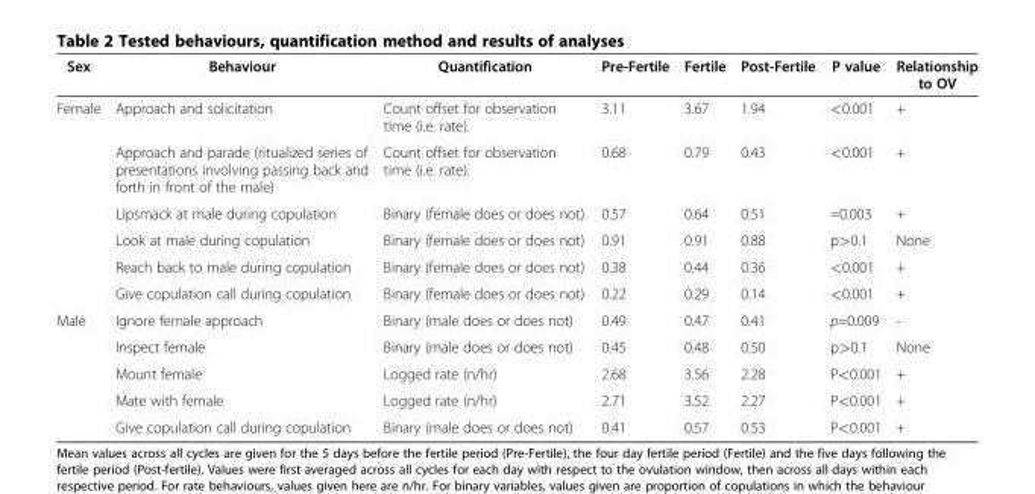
<table><thead><tr><td>Sex</td><td>Behaviour</td><td>Quantification</td><td>Pre-Fertile</td><td>Fertile</td><td>Post-Fertile</td><td>P value</td><td>Relationship to OV</td></tr></thead><tbody><tr><td rowspan="6">Female</td><td>Approach and solicitation</td><td>Count offset for observation time (i.e. rate).</td><td>3.11</td><td>3.67</td><td>1.94</td><td>&lt;0.001</td><td>+</td></tr><tr><td>Approach and parade (ritualized series of presentations involving passing back and forth in front of the male)</td><td>Count offset for observation time (i.e. rate).</td><td>0.68</td><td>0.79</td><td>0.43</td><td>&lt;0.001</td><td>+</td></tr><tr><td>Lipsmack at male during copulation</td><td>Binary (female does or does not).</td><td>0.57</td><td>0.64</td><td>0.51</td><td>=0.003</td><td>+</td></tr><tr><td>Look at male during copulation</td><td>Binary (female does or does not)</td><td>0.91</td><td>0.91</td><td>0.88</td><td>p&gt;0.1</td><td>None</td></tr><tr><td>Reach back to male during copulation</td><td>Binary (female does or does not)</td><td>0.38</td><td>0.44</td><td>0.36</td><td>&lt;0.001</td><td>+</td></tr><tr><td>Give copulation call during copulation</td><td>Binary (female does or does not)</td><td>0.22</td><td>0.29</td><td>0.14</td><td>&lt;0.001</td><td>+</td></tr><tr><td rowspan="5">Male</td><td>Ignore female approach</td><td>Binary (male does or does not)</td><td>0.49</td><td>0.47</td><td>0.41</td><td>p=0.009</td><td>-</td></tr><tr><td>Inspect female</td><td>Binary (male does or does not)</td><td>0.45</td><td>0.48</td><td>0.50</td><td>p&gt;0.1</td><td>None</td></tr><tr><td>Mount female</td><td>Logged rate (n/hr)</td><td>2.68</td><td>3.56</td><td>2.28</td><td>P&lt;0.001</td><td>+</td></tr><tr><td>Mate with female</td><td>Logged rate (n/hr)</td><td>2.71</td><td>3.52</td><td>2.27</td><td>P&lt;0.001</td><td>+</td></tr><tr><td>Give copulation call during copulation</td><td>Binary (male does or does not)</td><td>0.41</td><td>0.57</td><td>0.53</td><td>P&lt;0.001</td><td>+</td></tr></tbody></table>